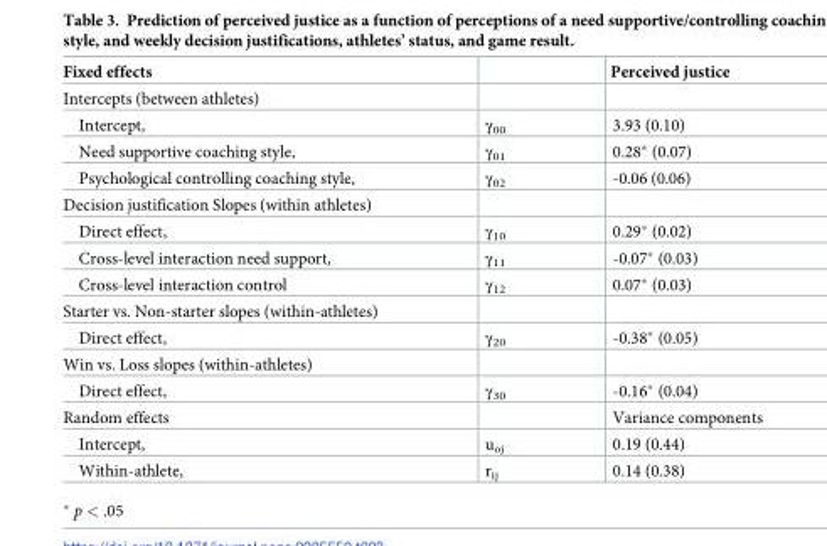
<table><thead><tr><td>Fixed effects</td><td></td><td>Perceived justice</td></tr></thead><tbody><tr><td colspan="3">Intercepts (between athletes)</td></tr><tr><td>Intercept,</td><td>γ<sub>00</sub></td><td>3.93 (0.10)</td></tr><tr><td>Need supportive coaching style,</td><td>γ<sub>01</sub></td><td>0.28* (0.07)</td></tr><tr><td>Psychological controlling coaching style,</td><td>γ<sub>02</sub></td><td>-0.06 (0.06)</td></tr><tr><td colspan="3">Decision justification Slopes (within athletes)</td></tr><tr><td>Direct effect,</td><td>γ<sub>10</sub></td><td>0.29* (0.02)</td></tr><tr><td>Cross-level interaction need support,</td><td>γ<sub>11</sub></td><td>-0.07* (0.03)</td></tr><tr><td>Cross-level interaction control</td><td>γ<sub>12</sub></td><td>0.07* (0.03)</td></tr><tr><td colspan="3">Starter vs. Non-starter slopes (within-athletes)</td></tr><tr><td>Direct effect,</td><td>γ<sub>20</sub></td><td>-0.38* (0.05)</td></tr><tr><td colspan="3">Win vs. Loss slopes (within-athletes)</td></tr><tr><td>Direct effect,</td><td>γ<sub>30</sub></td><td>-0.16* (0.04)</td></tr><tr><td>Random effects</td><td></td><td>Variance components</td></tr><tr><td>Intercept,</td><td>u<sub>oj</sub></td><td>0.19 (0.44)</td></tr><tr><td>Within-athlete,</td><td>r<sub>ij</sub></td><td>0.14 (0.38)</td></tr></tbody></table>